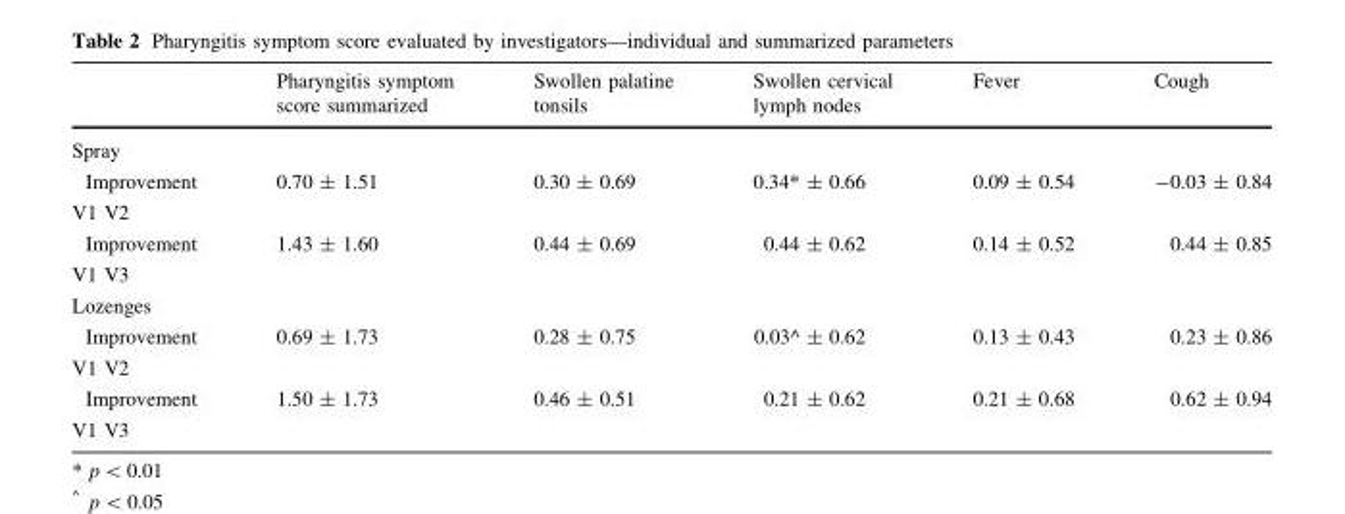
<table><thead><tr><td></td><td>Pharyngitis symptom score summarized</td><td>Swollen palatine tonsils</td><td>Swollen cervical lymph nodes</td><td>Fever</td><td>Cough</td></tr></thead><tbody><tr><td colspan="6">Spray</td></tr><tr><td>Improvement V1 V2</td><td>0.70 ± 1.51</td><td>0.30 ± 0.69</td><td>0.34* ± 0.66</td><td>0.09 ± 0.54</td><td>-0.03 ± 0.84</td></tr><tr><td>Improvement V1 V3</td><td>1.43 ± 1.60</td><td>0.44 ± 0.69</td><td>0.44 ± 0.62</td><td>0.14 ± 0.52</td><td>0.44 ± 0.85</td></tr><tr><td colspan="6">Lozenges</td></tr><tr><td>Improvement V1 V2</td><td>0.69 ± 1.73</td><td>0.28 ± 0.75</td><td>0.03^ ± 0.62</td><td>0.13 ± 0.43</td><td>0.23 ± 0.86</td></tr><tr><td>Improvement V1 V3</td><td>1.50 ± 1.73</td><td>0.46 ± 0.51</td><td>0.21 ± 0.62</td><td>0.21 ± 0.68</td><td>0.62 ± 0.94</td></tr></tbody></table>